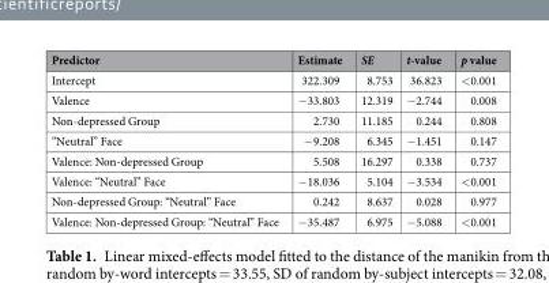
<table><thead><tr><td>Predictor</td><td>Estimate</td><td>SE</td><td>t-value</td><td>p value</td></tr></thead><tbody><tr><td>Intercept</td><td>322.309</td><td>8.753</td><td>36.823</td><td>&lt;0.001</td></tr><tr><td>Valence</td><td>−33.803</td><td>12.319</td><td>−2.744</td><td>0.008</td></tr><tr><td>Non-depressed Group</td><td>2.730</td><td>11.185</td><td>0.244</td><td>0.808</td></tr><tr><td>“Neutral” Face</td><td>−9.208</td><td>6.345</td><td>−1.451</td><td>0.147</td></tr><tr><td>Valence: Non-depressed Group</td><td>5.508</td><td>16.297</td><td>0.338</td><td>0.737</td></tr><tr><td>Valence: “Neutral” Face</td><td>−18.036</td><td>5.104</td><td>−3.534</td><td>&lt;0.001</td></tr><tr><td>Non-depressed Group: “Neutral” Face</td><td>0.242</td><td>8.637</td><td>0.028</td><td>0.977</td></tr><tr><td>Valence: Non-depressed Group: “Neutral” Face</td><td>−35.487</td><td>6.975</td><td>−5.088</td><td>&lt;0.001</td></tr></tbody></table>